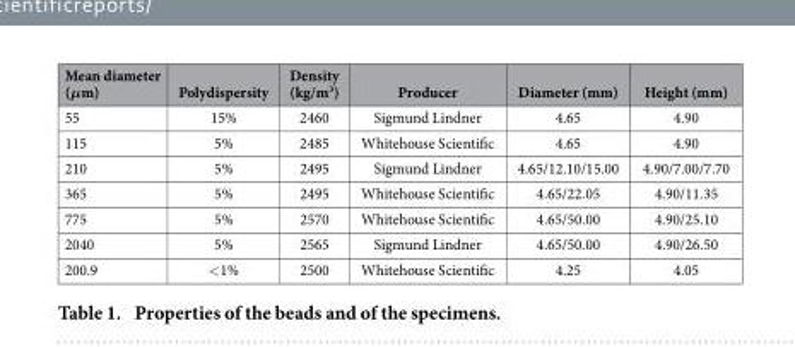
<table><thead><tr><td>Mean diameter (μm)</td><td>Polydispersity</td><td>Density (kg/m<sup>3</sup>)</td><td>Producer</td><td>Diameter (mm)</td><td>Height (mm)</td></tr></thead><tbody><tr><td>55</td><td>15%</td><td>2460</td><td>Sigmund Lindner</td><td>4.65</td><td>4.90</td></tr><tr><td>115</td><td>5%</td><td>2485</td><td>Whitehouse Scientific</td><td>4.65</td><td>4.90</td></tr><tr><td>210</td><td>5%</td><td>2495</td><td>Sigmund Lindner</td><td>4.65/12.10/15.00</td><td>4.90/7.00/7.70</td></tr><tr><td>365</td><td>5%</td><td>2495</td><td>Whitehouse Scientific</td><td>4.65/22.05</td><td>4.90/11.35</td></tr><tr><td>775</td><td>5%</td><td>2570</td><td>Whitehouse Scientific</td><td>4.65/50.00</td><td>4.90/25.10</td></tr><tr><td>2040</td><td>5%</td><td>2565</td><td>Sigmund Lindner</td><td>4.65/50.00</td><td>4.90/26.50</td></tr><tr><td>200.9</td><td>&lt; 1%</td><td>2500</td><td>Whitehouse Scientific</td><td>4.25</td><td>4.05</td></tr></tbody></table>